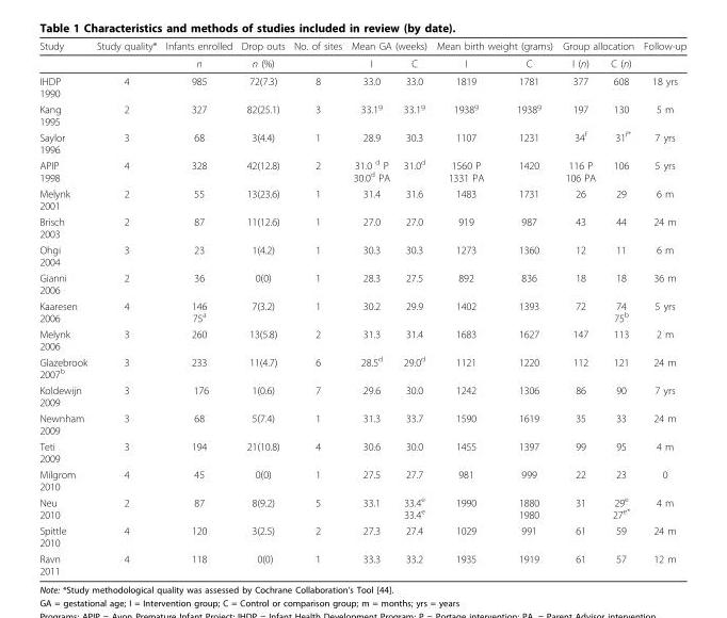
<table><thead><tr><td rowspan="2">Study</td><td rowspan="2">Study quality*</td><td rowspan="2">Infants enrolled n</td><td rowspan="2">Drop outs n (%)</td><td rowspan="2">No. of sites</td><td colspan="2">Mean GA (weeks)</td><td colspan="2">Mean birth weight (grams)</td><td colspan="2">Group allocation</td><td rowspan="2">Follow-up</td></tr><tr><td>I</td><td>C</td><td>I</td><td>C</td><td>I (n)</td><td>C (n)</td></tr></thead><tbody><tr><td>IHDP 1990</td><td>4</td><td>985</td><td>72(7.3)</td><td>8</td><td>33.0</td><td>33.0</td><td>1819</td><td>1781</td><td>377</td><td>608</td><td>18 yrs</td></tr><tr><td>Kang 1995</td><td>2</td><td>327</td><td>82(25.1)</td><td>3</td><td>33.1<sup>g</sup></td><td>33.1<sup>g</sup></td><td>1938<sup>g</sup></td><td>1938<sup>g</sup></td><td>197</td><td>130</td><td>5 m</td></tr><tr><td>Saylor 1996</td><td>3</td><td>68</td><td>3(4.4)</td><td>1</td><td>28.9</td><td>30.3</td><td>1107</td><td>1231</td><td>34<sup>f</sup></td><td>31<sup>f*</sup></td><td>7 yrs</td></tr><tr><td>APIP 1998</td><td>4</td><td>328</td><td>42(12.8)</td><td>2</td><td>31.0 <sup>d</sup> P 30.0<sup>d</sup> PA</td><td>31.0<sup>d</sup></td><td>1560 P 1331 PA</td><td>1420</td><td>116 P 106 PA</td><td>106</td><td>5 yrs</td></tr><tr><td>Melynk 2001</td><td>2</td><td>55</td><td>13(23.6)</td><td>1</td><td>31.4</td><td>31.6</td><td>1483</td><td>1731</td><td>26</td><td>29</td><td>6 m</td></tr><tr><td>Brisch 2003</td><td>2</td><td>87</td><td>11(12.6)</td><td>1</td><td>27.0</td><td>27.0</td><td>919</td><td>987</td><td>43</td><td>44</td><td>24 m</td></tr><tr><td>Ohgi 2004</td><td>3</td><td>23</td><td>1(4.2)</td><td>1</td><td>30.3</td><td>30.3</td><td>1273</td><td>1360</td><td>12</td><td>11</td><td>6 m</td></tr><tr><td>Gianni 2006</td><td>2</td><td>36</td><td>0(0)</td><td>1</td><td>28.3</td><td>27.5</td><td>892</td><td>836</td><td>18</td><td>18</td><td>36 m</td></tr><tr><td>Kaaresen 2006</td><td>4</td><td>146 75<sup>a</sup></td><td>7(3.2)</td><td>1</td><td>30.2</td><td>29.9</td><td>1402</td><td>1393</td><td>72</td><td>74 75<sup>b</sup></td><td>5 yrs</td></tr><tr><td>Melynk 2006</td><td>3</td><td>260</td><td>13(5.8)</td><td>2</td><td>31.3</td><td>31.4</td><td>1683</td><td>1627</td><td>147</td><td>113</td><td>2 m</td></tr><tr><td>Glazebrook 2007<sup>b</sup></td><td>3</td><td>233</td><td>11(4.7)</td><td>6</td><td>28.5<sup>d</sup></td><td>29.0<sup>d</sup></td><td>1121</td><td>1220</td><td>112</td><td>121</td><td>24 m</td></tr><tr><td>Koldewijn 2009</td><td>3</td><td>176</td><td>1(0.6)</td><td>7</td><td>29.6</td><td>30.0</td><td>1242</td><td>1306</td><td>86</td><td>90</td><td>7 yrs</td></tr><tr><td>Newnham 2009</td><td>3</td><td>68</td><td>5(7.4)</td><td>1</td><td>31.3</td><td>33.7</td><td>1590</td><td>1619</td><td>35</td><td>33</td><td>24 m</td></tr><tr><td>Teti 2009</td><td>3</td><td>194</td><td>21(10.8)</td><td>4</td><td>30.6</td><td>30.0</td><td>1455</td><td>1397</td><td>99</td><td>95</td><td>4 m</td></tr><tr><td>Milgrom 2010</td><td>4</td><td>45</td><td>0(0)</td><td>1</td><td>27.5</td><td>27.7</td><td>981</td><td>999</td><td>22</td><td>23</td><td>0</td></tr><tr><td>Neu 2010</td><td>2</td><td>87</td><td>8(9.2)</td><td>5</td><td>33.1</td><td>33.4<sup>e</sup> 33.4<sup>e</sup></td><td>1990</td><td>1880 1980</td><td>31</td><td>29<sup>e</sup> 27<sup>e*</sup></td><td>4 m</td></tr><tr><td>Spittle 2010</td><td>4</td><td>120</td><td>3(2.5)</td><td>2</td><td>27.3</td><td>27.4</td><td>1029</td><td>991</td><td>61</td><td>59</td><td>24 m</td></tr><tr><td>Ravn 2011</td><td>4</td><td>118</td><td>0(0)</td><td>1</td><td>33.3</td><td>33.2</td><td>1935</td><td>1919</td><td>61</td><td>57</td><td>12 m</td></tr></tbody></table>